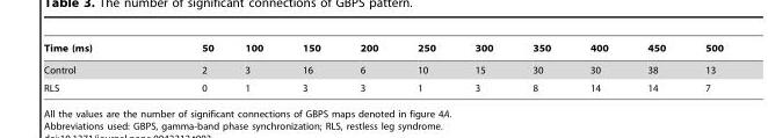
<table><thead><tr><td>Time (ms)</td><td>50</td><td>100</td><td>150</td><td>200</td><td>250</td><td>300</td><td>350</td><td>400</td><td>450</td><td>500</td></tr></thead><tbody><tr><td>Control</td><td>2</td><td>3</td><td>16</td><td>6</td><td>10</td><td>15</td><td>30</td><td>30</td><td>38</td><td>13</td></tr><tr><td>RLS</td><td>0</td><td>1</td><td>3</td><td>3</td><td>1</td><td>3</td><td>8</td><td>14</td><td>14</td><td>7</td></tr></tbody></table>